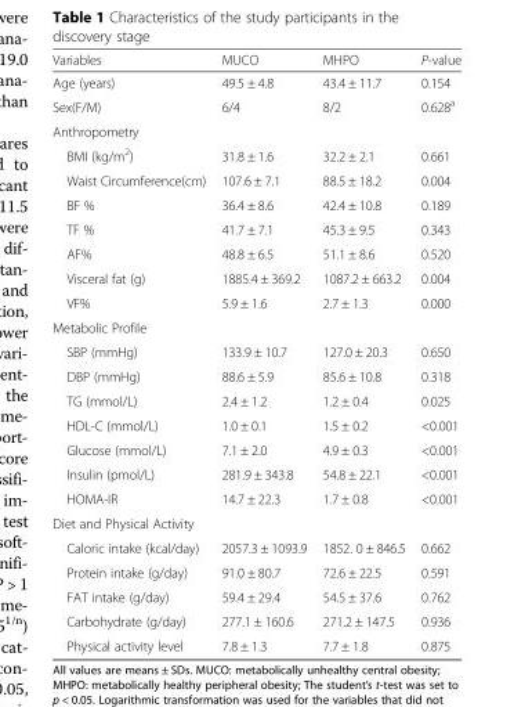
<table><thead><tr><td>Variables</td><td>MUCO</td><td>MHPO</td><td>P-value</td></tr></thead><tbody><tr><td>Age (years)</td><td>49.5 ± 4.8</td><td>43.4 ± 11.7</td><td>0.154</td></tr><tr><td>Sex(F/M)</td><td>6/4</td><td>8/2</td><td>0.628<sup>a</sup></td></tr><tr><td colspan="4">Anthropometry</td></tr><tr><td>BMI (kg/m<sup>2</sup>)</td><td>31.8 ± 1.6</td><td>32.2 ± 2.1</td><td>0.661</td></tr><tr><td>Waist Circumference(cm)</td><td>107.6 ± 7.1</td><td>88.5 ± 18.2</td><td>0.004</td></tr><tr><td>BF %</td><td>36.4 ± 8.6</td><td>42.4 ± 10.8</td><td>0.189</td></tr><tr><td>TF %</td><td>41.7 ± 7.1</td><td>45.3 ± 9.5</td><td>0.343</td></tr><tr><td>AF%</td><td>48.8 ± 6.5</td><td>51.1 ± 8.6</td><td>0.520</td></tr><tr><td>Visceral fat (g)</td><td>1885.4 ± 369.2</td><td>1087.2 ± 663.2</td><td>0.004</td></tr><tr><td>VF%</td><td>5.9 ± 1.6</td><td>2.7 ± 1.3</td><td>0.000</td></tr><tr><td colspan="4">Metabolic Profile</td></tr><tr><td>SBP (mmHg)</td><td>133.9 ± 10.7</td><td>127.0 ± 20.3</td><td>0.650</td></tr><tr><td>DBP (mmHg)</td><td>88.6 ± 5.9</td><td>85.6 ± 10.8</td><td>0.318</td></tr><tr><td>TG (mmol/L)</td><td>2.4 ± 1.2</td><td>1.2 ± 0.4</td><td>0.025</td></tr><tr><td>HDL-C (mmol/L)</td><td>1.0 ± 0.1</td><td>1.5 ± 0.2</td><td>&lt;0.001</td></tr><tr><td>Glucose (mmol/L)</td><td>7.1 ± 2.0</td><td>4.9 ± 0.3</td><td>&lt;0.001</td></tr><tr><td>Insulin (pmol/L)</td><td>281.9 ± 343.8</td><td>54.8 ± 22.1</td><td>&lt;0.001</td></tr><tr><td>HOMA-IR</td><td>14.7 ± 22.3</td><td>1.7 ± 0.8</td><td>&lt;0.001</td></tr><tr><td colspan="4">Diet and Physical Activity</td></tr><tr><td>Caloric intake (kcal/day)</td><td>2057.3 ± 1093.9</td><td>1852. 0 ± 846.5</td><td>0.662</td></tr><tr><td>Protein intake (g/day)</td><td>91.0 ± 80.7</td><td>72.6 ± 22.5</td><td>0.591</td></tr><tr><td>FAT intake (g/day)</td><td>59.4 ± 29.4</td><td>54.5 ± 37.6</td><td>0.762</td></tr><tr><td>Carbohydrate (g/day)</td><td>277.1 ± 160.6</td><td>271.2 ± 147.5</td><td>0.936</td></tr><tr><td>Physical activity level</td><td>7.8 ± 1.3</td><td>7.7 ± 1.8</td><td>0.875</td></tr></tbody></table>